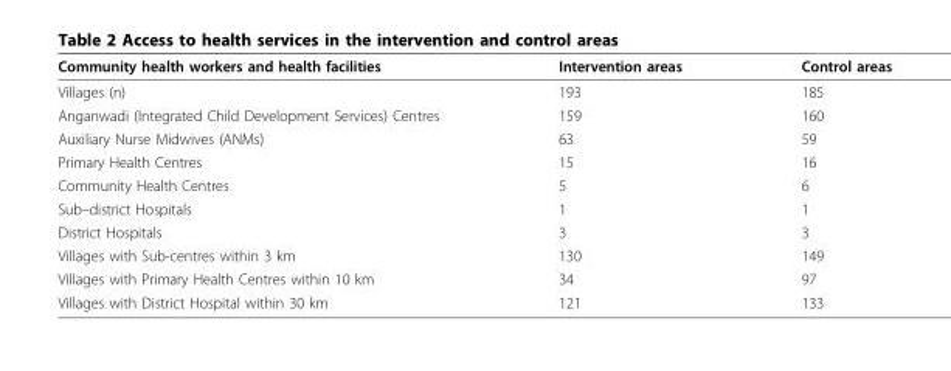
<table><thead><tr><td>Community health workers and health facilities</td><td>Intervention areas</td><td>Control areas</td></tr></thead><tbody><tr><td>Villages (n)</td><td>193</td><td>185</td></tr><tr><td>Anganwadi (Integrated Child Development Services) Centres</td><td>159</td><td>160</td></tr><tr><td>Auxiliary Nurse Midwives (ANMs)</td><td>63</td><td>59</td></tr><tr><td>Primary Health Centres</td><td>15</td><td>16</td></tr><tr><td>Community Health Centres</td><td>5</td><td>6</td></tr><tr><td>Sub–district Hospitals</td><td>1</td><td>1</td></tr><tr><td>District Hospitals</td><td>3</td><td>3</td></tr><tr><td>Villages with Sub-centres within 3 km</td><td>130</td><td>149</td></tr><tr><td>Villages with Primary Health Centres within 10 km</td><td>34</td><td>97</td></tr><tr><td>Villages with District Hospital within 30 km</td><td>121</td><td>133</td></tr></tbody></table>